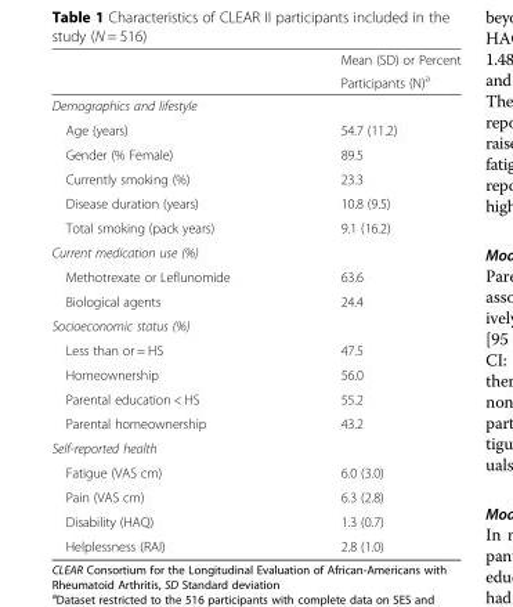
<table><thead><tr><td rowspan="2"></td><td rowspan="2">Mean (SD) or Percent Participants (N)<sup>a</sup></td></tr><tr></tr></thead><tbody><tr><td colspan="2">Demographics and lifestyle</td></tr><tr><td>Age (years)</td><td>54.7 (11.2)</td></tr><tr><td>Gender (% Female)</td><td>89.5</td></tr><tr><td>Currently smoking (%)</td><td>23.3</td></tr><tr><td>Disease duration (years)</td><td>10.8 (9.5)</td></tr><tr><td>Total smoking (pack years)</td><td>9.1 (16.2)</td></tr><tr><td colspan="2">Current medication use (%)</td></tr><tr><td>Methotrexate or Leflunomide</td><td>63.6</td></tr><tr><td>Biological agents</td><td>24.4</td></tr><tr><td colspan="2">Socioeconomic status (%)</td></tr><tr><td>Less than or = HS</td><td>47.5</td></tr><tr><td>Homeownership</td><td>56.0</td></tr><tr><td>Parental education &lt; HS</td><td>55.2</td></tr><tr><td>Parental homeownership</td><td>43.2</td></tr><tr><td colspan="2">Self-reported health</td></tr><tr><td>Fatigue (VAS cm)</td><td>6.0 (3.0)</td></tr><tr><td>Pain (VAS cm)</td><td>6.3 (2.8)</td></tr><tr><td>Disability (HAQ)</td><td>1.3 (0.7)</td></tr><tr><td>Helplessness (RAI)</td><td>2.8 (1.0)</td></tr></tbody></table>